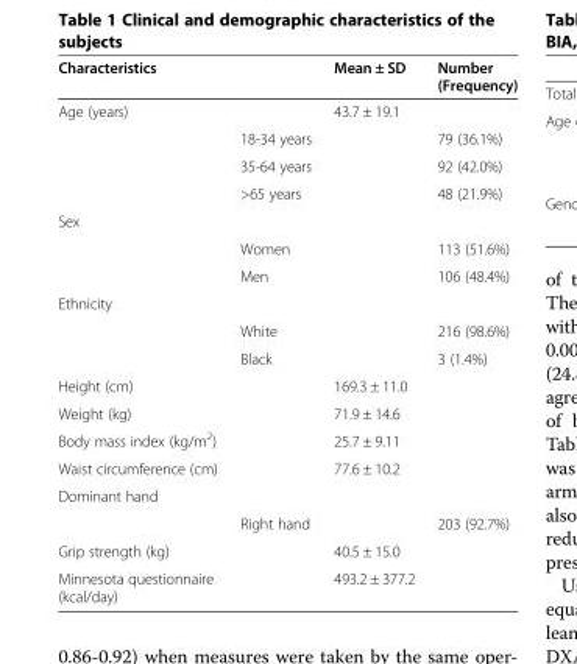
<table><thead><tr><td>Characteristics</td><td></td><td>Mean ± SD</td><td>Number (Frequency)</td></tr></thead><tbody><tr><td rowspan="4">Age (years)</td><td></td><td>43.7 ± 19.1</td><td></td></tr><tr><td>18-34 years</td><td></td><td>79 (36.1%)</td></tr><tr><td>35-64 years</td><td></td><td>92 (42.0%)</td></tr><tr><td>&gt;65 years</td><td></td><td>48 (21.9%)</td></tr><tr><td colspan="4">Sex</td></tr><tr><td></td><td>Women</td><td></td><td>113 (51.6%)</td></tr><tr><td></td><td>Men</td><td></td><td>106 (48.4%)</td></tr><tr><td colspan="4">Ethnicity</td></tr><tr><td></td><td>White</td><td></td><td>216 (98.6%)</td></tr><tr><td></td><td>Black</td><td></td><td>3 (1.4%)</td></tr><tr><td>Height (cm)</td><td></td><td>169.3 ± 11.0</td><td></td></tr><tr><td>Weight (kg)</td><td></td><td>71.9 ± 14.6</td><td></td></tr><tr><td>Body mass index (kg/m<sup>2</sup>)</td><td></td><td>25.7 ± 9.11</td><td></td></tr><tr><td>Waist circumference (cm)</td><td></td><td>77.6 ± 10.2</td><td></td></tr><tr><td colspan="4">Dominant hand</td></tr><tr><td></td><td>Right hand</td><td></td><td>203 (92.7%)</td></tr><tr><td>Grip strength (kg)</td><td></td><td>40.5 ± 15.0</td><td></td></tr><tr><td>Minnesota questionnaire (kcal/day)</td><td></td><td>493.2 ± 377.2</td><td></td></tr></tbody></table>